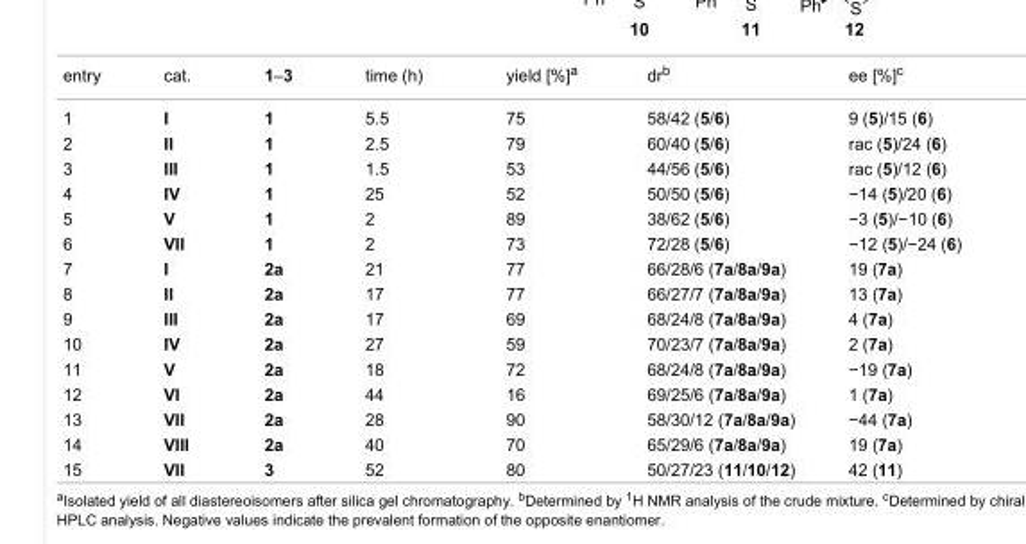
<table><tbody><tr><td>entry</td><td>cat.</td><td>1–3</td><td>time (h)</td><td>yield [%]<sup>a</sup></td><td>dr<sup>b</sup></td><td>ee [%]<sup>c</sup></td></tr><tr><td>1</td><td>I</td><td>1</td><td>5.5</td><td>75</td><td>58/42 (5/6)</td><td>9 (5)/15 (6)</td></tr><tr><td>2</td><td>II</td><td>1</td><td>2.5</td><td>79</td><td>60/40 (5/6)</td><td>rac (5)/24 (6)</td></tr><tr><td>3</td><td>III</td><td>1</td><td>1.5</td><td>53</td><td>44/56 (5/6)</td><td>rac (5)/12 (6)</td></tr><tr><td>4</td><td>IV</td><td>1</td><td>25</td><td>52</td><td>50/50 (5/6)</td><td>−14 (5)/20 (6)</td></tr><tr><td>5</td><td>V</td><td>1</td><td>2</td><td>89</td><td>38/62 (5/6)</td><td>−3 (5)/−10 (6)</td></tr><tr><td>6</td><td>VII</td><td>1</td><td>2</td><td>73</td><td>72/28 (5/6)</td><td>−12 (5)/−24 (6)</td></tr><tr><td>7</td><td>I</td><td>2a</td><td>21</td><td>77</td><td>66/28/6 (7a/8a/9a)</td><td>19 (7a)</td></tr><tr><td>8</td><td>II</td><td>2a</td><td>17</td><td>77</td><td>66/27/7 (7a/8a/9a)</td><td>13 (7a)</td></tr><tr><td>9</td><td>III</td><td>2a</td><td>17</td><td>69</td><td>68/24/8 (7a/8a/9a)</td><td>4 (7a)</td></tr><tr><td>10</td><td>IV</td><td>2a</td><td>27</td><td>59</td><td>70/23/7 (7a/8a/9a)</td><td>2 (7a)</td></tr><tr><td>11</td><td>V</td><td>2a</td><td>18</td><td>72</td><td>68/24/8 (7a/8a/9a)</td><td>−19 (7a)</td></tr><tr><td>12</td><td>VI</td><td>2a</td><td>44</td><td>16</td><td>69/25/6 (7a/8a/9a)</td><td>1 (7a)</td></tr><tr><td>13</td><td>VII</td><td>2a</td><td>28</td><td>90</td><td>58/30/12 (7a/8a/9a)</td><td>−44 (7a)</td></tr><tr><td>14</td><td>VIII</td><td>2a</td><td>40</td><td>70</td><td>65/29/6 (7a/8a/9a)</td><td>19 (7a)</td></tr><tr><td>15</td><td>VII</td><td>3</td><td>52</td><td>80</td><td>50/27/23 (11/10/12)</td><td>42 (11)</td></tr></tbody></table>